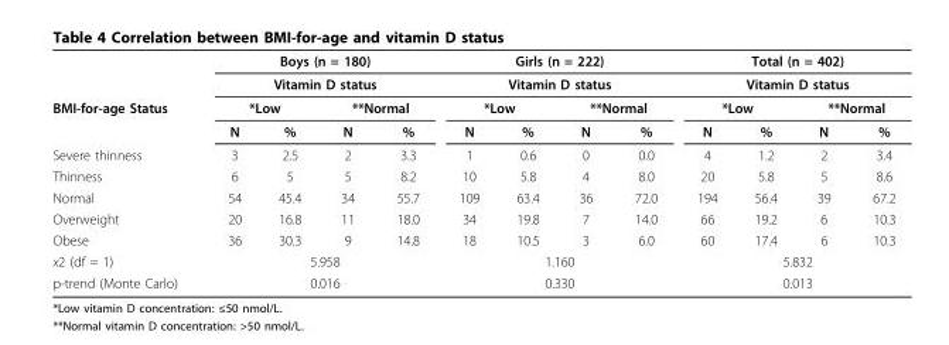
<table><thead><tr><td rowspan="4">BMI-for-age Status</td><td rowspan="2" colspan="4">Boys (n = 180) Vitamin D status</td><td rowspan="2" colspan="4">Girls (n = 222) Vitamin D status</td><td rowspan="2" colspan="4">Total (n = 402) Vitamin D status</td></tr><tr></tr><tr><td colspan="2">*Low</td><td colspan="2">**Normal</td><td colspan="2">*Low</td><td colspan="2">**Normal</td><td colspan="2">*Low</td><td colspan="2">**Normal</td></tr><tr><td>N</td><td>%</td><td>N</td><td>%</td><td>N</td><td>%</td><td>N</td><td>%</td><td>N</td><td>%</td><td>N</td><td>%</td></tr></thead><tbody><tr><td>Severe thinness</td><td>3</td><td>2.5</td><td>2</td><td>3.3</td><td>1</td><td>0.6</td><td>0</td><td>0.0</td><td>4</td><td>1.2</td><td>2</td><td>3.4</td></tr><tr><td>Thinness</td><td>6</td><td>5</td><td>5</td><td>8.2</td><td>10</td><td>5.8</td><td>4</td><td>8.0</td><td>20</td><td>5.8</td><td>5</td><td>8.6</td></tr><tr><td>Normal</td><td>54</td><td>45.4</td><td>34</td><td>55.7</td><td>109</td><td>63.4</td><td>36</td><td>72.0</td><td>194</td><td>56.4</td><td>39</td><td>67.2</td></tr><tr><td>Overweight</td><td>20</td><td>16.8</td><td>11</td><td>18.0</td><td>34</td><td>19.8</td><td>7</td><td>14.0</td><td>66</td><td>19.2</td><td>6</td><td>10.3</td></tr><tr><td>Obese</td><td>36</td><td>30.3</td><td>9</td><td>14.8</td><td>18</td><td>10.5</td><td>3</td><td>6.0</td><td>60</td><td>17.4</td><td>6</td><td>10.3</td></tr><tr><td>x2 (df = 1)</td><td colspan="4">5.958</td><td colspan="4">1.160</td><td colspan="4">5.832</td></tr><tr><td>p-trend (Monte Carlo)</td><td colspan="4">0.016</td><td colspan="4">0.330</td><td colspan="4">0.013</td></tr></tbody></table>